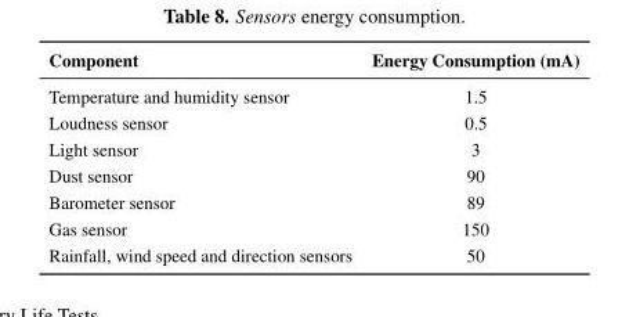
<table><thead><tr><td>Component</td><td>Energy Consumption (mA)</td></tr></thead><tbody><tr><td>Temperature and humidity sensor</td><td>1.5</td></tr><tr><td>Loudness sensor</td><td>0.5</td></tr><tr><td>Light sensor</td><td>3</td></tr><tr><td>Dust sensor</td><td>90</td></tr><tr><td>Barometer sensor</td><td>89</td></tr><tr><td>Gas sensor</td><td>150</td></tr><tr><td>Rainfall, wind speed and direction sensors</td><td>50</td></tr></tbody></table>